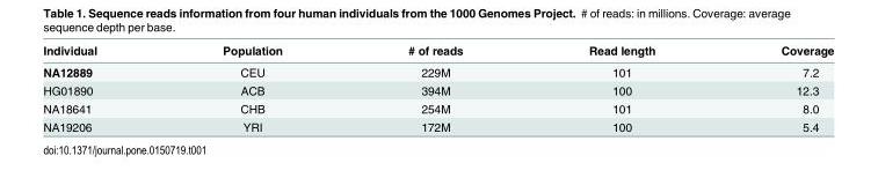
<table><thead><tr><td>Individual</td><td>Population</td><td># of reads</td><td>Read length</td><td>Coverage</td></tr></thead><tbody><tr><td>NA12889</td><td>CEU</td><td>229M</td><td>101</td><td>7.2</td></tr><tr><td>HG01890</td><td>ACB</td><td>394M</td><td>100</td><td>12.3</td></tr><tr><td>NA18641</td><td>CHB</td><td>254M</td><td>101</td><td>8.0</td></tr><tr><td>NA19206</td><td>YRI</td><td>172M</td><td>100</td><td>5.4</td></tr></tbody></table>